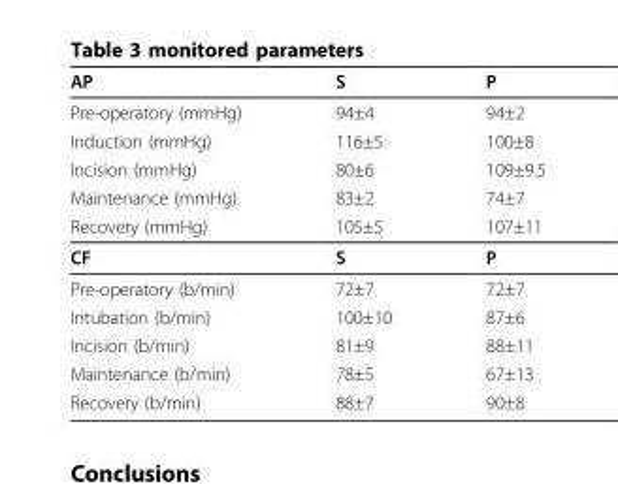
<table><thead><tr><td>AP</td><td>S</td><td>P</td></tr></thead><tbody><tr><td>Pre-operatory (mmHg)</td><td>94±4</td><td>94±2</td></tr><tr><td>Induction (mmHg)</td><td>116±5</td><td>100±8</td></tr><tr><td>Incision (mmHg)</td><td>80±6</td><td>109±9.5</td></tr><tr><td>Maintenance (mmHg)</td><td>83±2</td><td>74±7</td></tr><tr><td>Recovery (mmHg)</td><td>105±5</td><td>107±11</td></tr><tr><td>CF</td><td>S</td><td>P</td></tr><tr><td>Pre-operatory (b/min)</td><td>72±7</td><td>72±7</td></tr><tr><td>Intubation (b/min)</td><td>100±10</td><td>87±6</td></tr><tr><td>Incision (b/min)</td><td>81±9</td><td>88±11</td></tr><tr><td>Maintenance (b/min)</td><td>78±5</td><td>67±13</td></tr><tr><td>Recovery (b/min)</td><td>88±7</td><td>90±8</td></tr></tbody></table>